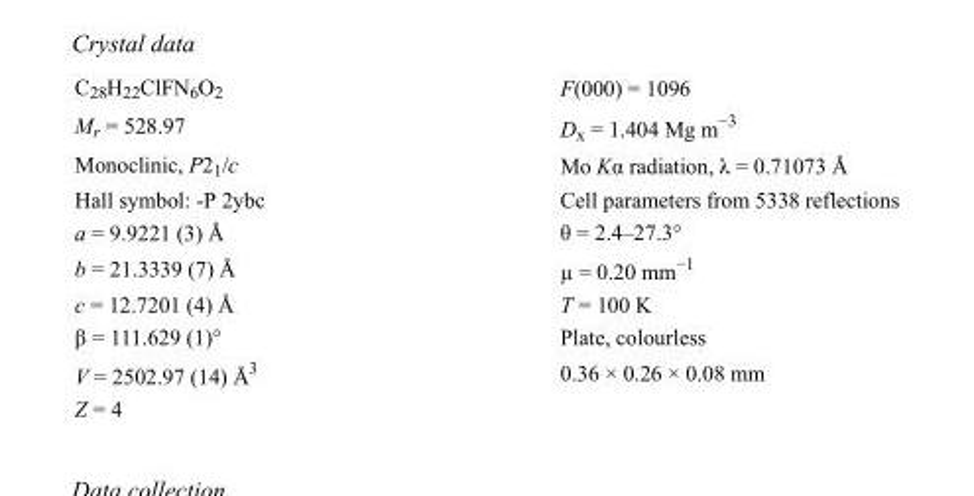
<table><tbody><tr><td>C<sub>28</sub>H<sub>22</sub>ClFN<sub>6</sub>O<sub>2</sub></td><td>F(000) = 1096</td></tr><tr><td>M<sub>r</sub> = 528.97</td><td>D<sub>x</sub> = 1.404 Mg m<sup>−3</sup></td></tr><tr><td>Monoclinic, P2<sub>1</sub>/c</td><td>Mo Kα radiation, λ = 0.71073 Å</td></tr><tr><td>Hall symbol: -P 2ybc</td><td>Cell parameters from 5338 reflections</td></tr><tr><td>a = 9.9221 (3) Å</td><td>θ = 2.4–27.3°</td></tr><tr><td>b = 21.3339 (7) Å</td><td>µ = 0.20 mm<sup>−1</sup></td></tr><tr><td>c = 12.7201 (4) Å</td><td>T = 100 K</td></tr><tr><td>β = 111.629 (1)°</td><td>Plate, colourless</td></tr><tr><td>V = 2502.97 (14) Å<sup>3</sup></td><td>0.36 × 0.26 × 0.08 mm</td></tr><tr><td>Z = 4</td><td></td></tr></tbody></table>